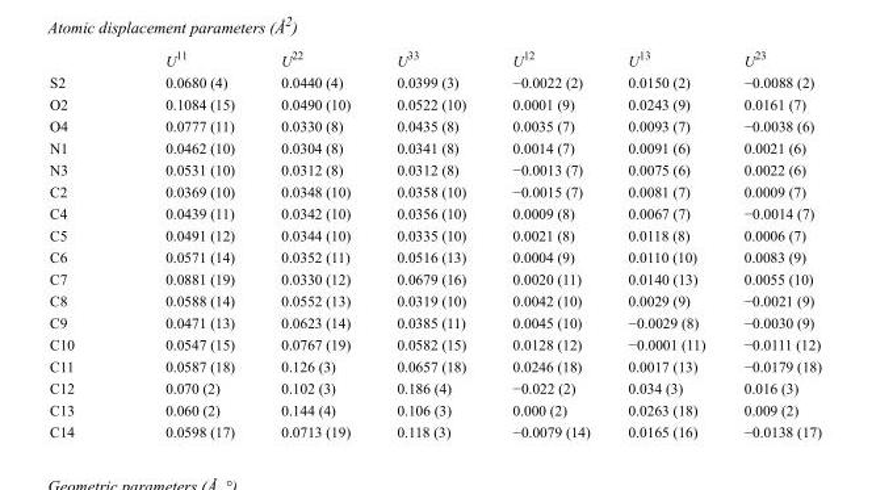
<table><thead><tr><td></td><td>U<sup>11</sup></td><td>U<sup>22</sup></td><td>U<sup>33</sup></td><td>U<sup>12</sup></td><td>U<sup>13</sup></td><td>U<sup>23</sup></td></tr></thead><tbody><tr><td>S2</td><td>0.0680 (4)</td><td>0.0440 (4)</td><td>0.0399 (3)</td><td>−0.0022 (2)</td><td>0.0150 (2)</td><td>−0.0088 (2)</td></tr><tr><td>O2</td><td>0.1084 (15)</td><td>0.0490 (10)</td><td>0.0522 (10)</td><td>0.0001 (9)</td><td>0.0243 (9)</td><td>0.0161 (7)</td></tr><tr><td>O4</td><td>0.0777 (11)</td><td>0.0330 (8)</td><td>0.0435 (8)</td><td>0.0035 (7)</td><td>0.0093 (7)</td><td>−0.0038 (6)</td></tr><tr><td>N1</td><td>0.0462 (10)</td><td>0.0304 (8)</td><td>0.0341 (8)</td><td>0.0014 (7)</td><td>0.0091 (6)</td><td>0.0021 (6)</td></tr><tr><td>N3</td><td>0.0531 (10)</td><td>0.0312 (8)</td><td>0.0312 (8)</td><td>−0.0013 (7)</td><td>0.0075 (6)</td><td>0.0022 (6)</td></tr><tr><td>C2</td><td>0.0369 (10)</td><td>0.0348 (10)</td><td>0.0358 (10)</td><td>−0.0015 (7)</td><td>0.0081 (7)</td><td>0.0009 (7)</td></tr><tr><td>C4</td><td>0.0439 (11)</td><td>0.0342 (10)</td><td>0.0356 (10)</td><td>0.0009 (8)</td><td>0.0067 (7)</td><td>−0.0014 (7)</td></tr><tr><td>C5</td><td>0.0491 (12)</td><td>0.0344 (10)</td><td>0.0335 (10)</td><td>0.0021 (8)</td><td>0.0118 (8)</td><td>0.0006 (7)</td></tr><tr><td>C6</td><td>0.0571 (14)</td><td>0.0352 (11)</td><td>0.0516 (13)</td><td>0.0004 (9)</td><td>0.0110 (10)</td><td>0.0083 (9)</td></tr><tr><td>C7</td><td>0.0881 (19)</td><td>0.0330 (12)</td><td>0.0679 (16)</td><td>0.0020 (11)</td><td>0.0140 (13)</td><td>0.0055 (10)</td></tr><tr><td>C8</td><td>0.0588 (14)</td><td>0.0552 (13)</td><td>0.0319 (10)</td><td>0.0042 (10)</td><td>0.0029 (9)</td><td>−0.0021 (9)</td></tr><tr><td>C9</td><td>0.0471 (13)</td><td>0.0623 (14)</td><td>0.0385 (11)</td><td>0.0045 (10)</td><td>−0.0029 (8)</td><td>−0.0030 (9)</td></tr><tr><td>C10</td><td>0.0547 (15)</td><td>0.0767 (19)</td><td>0.0582 (15)</td><td>0.0128 (12)</td><td>−0.0001 (11)</td><td>−0.0111 (12)</td></tr><tr><td>C11</td><td>0.0587 (18)</td><td>0.126 (3)</td><td>0.0657 (18)</td><td>0.0246 (18)</td><td>0.0017 (13)</td><td>−0.0179 (18)</td></tr><tr><td>C12</td><td>0.070 (2)</td><td>0.102 (3)</td><td>0.186 (4)</td><td>−0.022 (2)</td><td>0.034 (3)</td><td>0.016 (3)</td></tr><tr><td>C13</td><td>0.060 (2)</td><td>0.144 (4)</td><td>0.106 (3)</td><td>0.000 (2)</td><td>0.0263 (18)</td><td>0.009 (2)</td></tr><tr><td>C14</td><td>0.0598 (17)</td><td>0.0713 (19)</td><td>0.118 (3)</td><td>−0.0079 (14)</td><td>0.0165 (16)</td><td>−0.0138 (17)</td></tr></tbody></table>